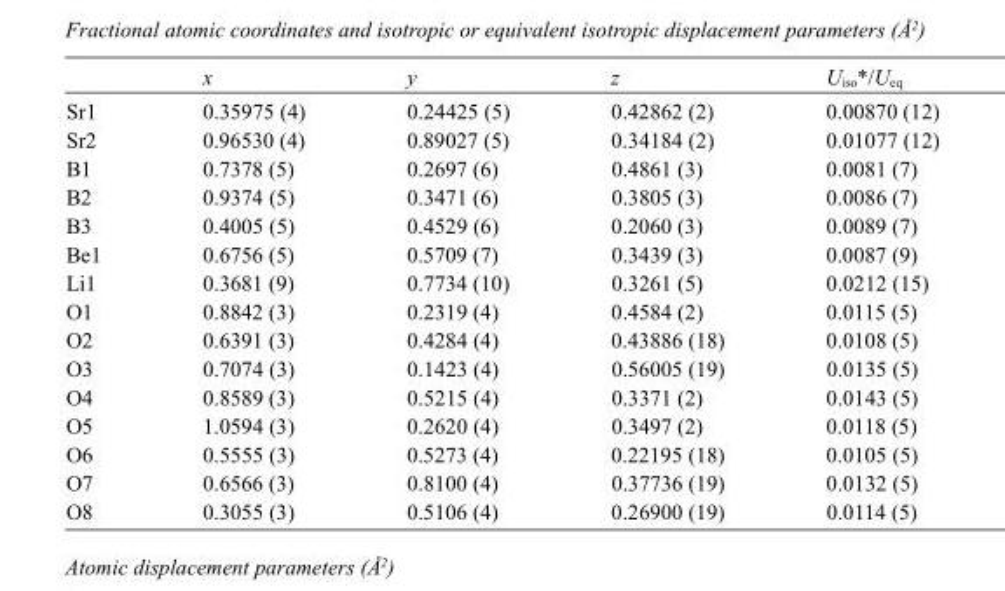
<table><thead><tr><td></td><td>x</td><td>y</td><td>z</td><td>U<sub>iso</sub>*/U<sub>eq</sub></td></tr></thead><tbody><tr><td>Sr1</td><td>0.35975 (4)</td><td>0.24425 (5)</td><td>0.42862 (2)</td><td>0.00870 (12)</td></tr><tr><td>Sr2</td><td>0.96530 (4)</td><td>0.89027 (5)</td><td>0.34184 (2)</td><td>0.01077 (12)</td></tr><tr><td>B1</td><td>0.7378 (5)</td><td>0.2697 (6)</td><td>0.4861 (3)</td><td>0.0081 (7)</td></tr><tr><td>B2</td><td>0.9374 (5)</td><td>0.3471 (6)</td><td>0.3805 (3)</td><td>0.0086 (7)</td></tr><tr><td>B3</td><td>0.4005 (5)</td><td>0.4529 (6)</td><td>0.2060 (3)</td><td>0.0089 (7)</td></tr><tr><td>Be1</td><td>0.6756 (5)</td><td>0.5709 (7)</td><td>0.3439 (3)</td><td>0.0087 (9)</td></tr><tr><td>Li1</td><td>0.3681 (9)</td><td>0.7734 (10)</td><td>0.3261 (5)</td><td>0.0212 (15)</td></tr><tr><td>O1</td><td>0.8842 (3)</td><td>0.2319 (4)</td><td>0.4584 (2)</td><td>0.0115 (5)</td></tr><tr><td>O2</td><td>0.6391 (3)</td><td>0.4284 (4)</td><td>0.43886 (18)</td><td>0.0108 (5)</td></tr><tr><td>O3</td><td>0.7074 (3)</td><td>0.1423 (4)</td><td>0.56005 (19)</td><td>0.0135 (5)</td></tr><tr><td>O4</td><td>0.8589 (3)</td><td>0.5215 (4)</td><td>0.3371 (2)</td><td>0.0143 (5)</td></tr><tr><td>O5</td><td>1.0594 (3)</td><td>0.2620 (4)</td><td>0.3497 (2)</td><td>0.0118 (5)</td></tr><tr><td>O6</td><td>0.5555 (3)</td><td>0.5273 (4)</td><td>0.22195 (18)</td><td>0.0105 (5)</td></tr><tr><td>O7</td><td>0.6566 (3)</td><td>0.8100 (4)</td><td>0.37736 (19)</td><td>0.0132 (5)</td></tr><tr><td>O8</td><td>0.3055 (3)</td><td>0.5106 (4)</td><td>0.26900 (19)</td><td>0.0114 (5)</td></tr></tbody></table>